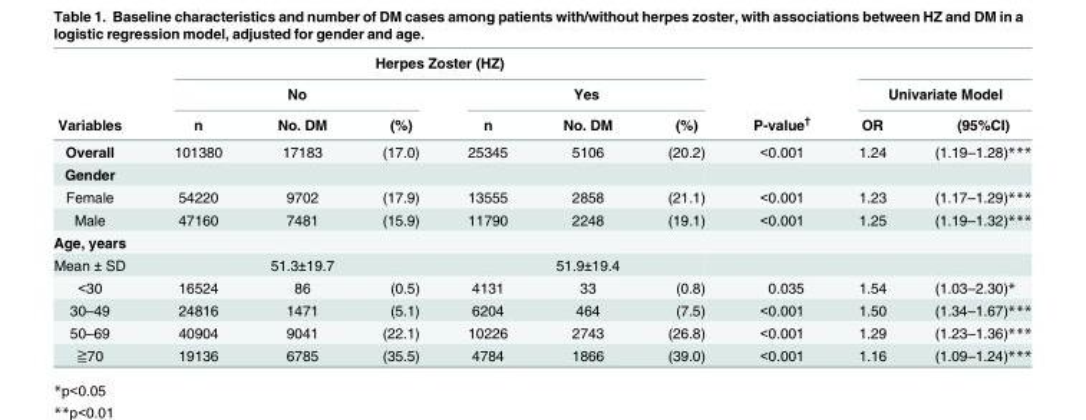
<table><thead><tr><td rowspan="3">Variables</td><td colspan="6">Herpes Zoster (HZ)</td><td rowspan="3">P-value<sup>†</sup></td><td></td><td></td></tr><tr><td colspan="3">No</td><td colspan="3">Yes</td><td colspan="2">Univariate Model</td></tr><tr><td>n</td><td>No. DM</td><td>(%)</td><td>n</td><td>No. DM</td><td>(%)</td><td>OR</td><td>(95%CI)</td></tr></thead><tbody><tr><td>Overall</td><td>101380</td><td>17183</td><td>(17.0)</td><td>25345</td><td>5106</td><td>(20.2)</td><td>&lt;0.001</td><td>1.24</td><td>(1.19–1.28)***</td></tr><tr><td colspan="10">Gender</td></tr><tr><td>Female</td><td>54220</td><td>9702</td><td>(17.9)</td><td>13555</td><td>2858</td><td>(21.1)</td><td>&lt;0.001</td><td>1.23</td><td>(1.17–1.29)***</td></tr><tr><td>Male</td><td>47160</td><td>7481</td><td>(15.9)</td><td>11790</td><td>2248</td><td>(19.1)</td><td>&lt;0.001</td><td>1.25</td><td>(1.19–1.32)***</td></tr><tr><td colspan="10">Age, years</td></tr><tr><td>Mean ± SD</td><td></td><td>51.3±19.7</td><td></td><td></td><td>51.9±19.4</td><td></td><td></td><td></td><td></td></tr><tr><td>&lt;30</td><td>16524</td><td>86</td><td>(0.5)</td><td>4131</td><td>33</td><td>(0.8)</td><td>0.035</td><td>1.54</td><td>(1.03–2.30)*</td></tr><tr><td>30–49</td><td>24816</td><td>1471</td><td>(5.1)</td><td>6204</td><td>464</td><td>(7.5)</td><td>&lt;0.001</td><td>1.50</td><td>(1.34–1.67)***</td></tr><tr><td>50–69</td><td>40904</td><td>9041</td><td>(22.1)</td><td>10226</td><td>2743</td><td>(26.8)</td><td>&lt;0.001</td><td>1.29</td><td>(1.23–1.36)***</td></tr><tr><td>≧70</td><td>19136</td><td>6785</td><td>(35.5)</td><td>4784</td><td>1866</td><td>(39.0)</td><td>&lt;0.001</td><td>1.16</td><td>(1.09–1.24)***</td></tr></tbody></table>